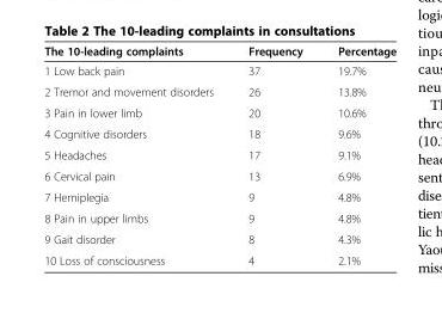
<table><thead><tr><td>The 10-leading complaints</td><td>Frequency</td><td>Percentage</td></tr></thead><tbody><tr><td>1 Low back pain</td><td>37</td><td>19.7%</td></tr><tr><td>2 Tremor and movement disorders</td><td>26</td><td>13.8%</td></tr><tr><td>3 Pain in lower limb</td><td>20</td><td>10.6%</td></tr><tr><td>4 Cognitive disorders</td><td>18</td><td>9.6%</td></tr><tr><td>5 Headaches</td><td>17</td><td>9.1%</td></tr><tr><td>6 Cervical pain</td><td>13</td><td>6.9%</td></tr><tr><td>7 Hemiplegia</td><td>9</td><td>4.8%</td></tr><tr><td>8 Pain in upper limbs</td><td>9</td><td>4.8%</td></tr><tr><td>9 Gait disorder</td><td>8</td><td>4.3%</td></tr><tr><td>10 Loss of consciousness</td><td>4</td><td>2.1%</td></tr></tbody></table>